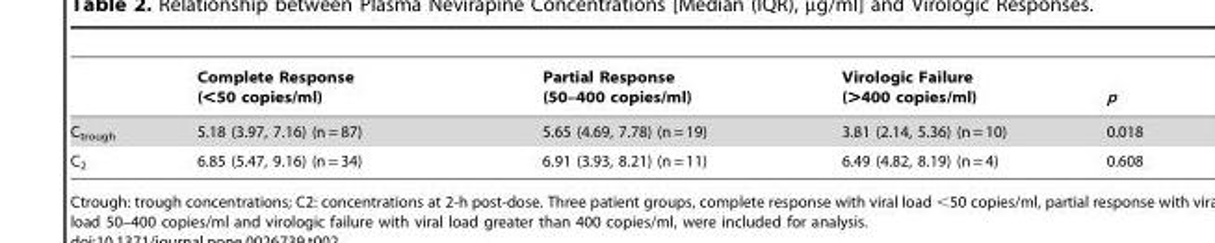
<table><thead><tr><td></td><td>Complete Response (&lt;50 copies/ml)</td><td>Partial Response (50–400 copies/ml)</td><td>Virologic Failure (&gt;400 copies/ml)</td><td>p</td></tr></thead><tbody><tr><td>C<sub>trough</sub></td><td>5.18 (3.97, 7.16) (n = 87)</td><td>5.65 (4.69, 7.78) (n = 19)</td><td>3.81 (2.14, 5.36) (n = 10)</td><td>0.018</td></tr><tr><td>C<sub>2</sub></td><td>6.85 (5.47, 9.16) (n = 34)</td><td>6.91 (3.93, 8.21) (n = 11)</td><td>6.49 (4.82, 8.19) (n = 4)</td><td>0.608</td></tr></tbody></table>